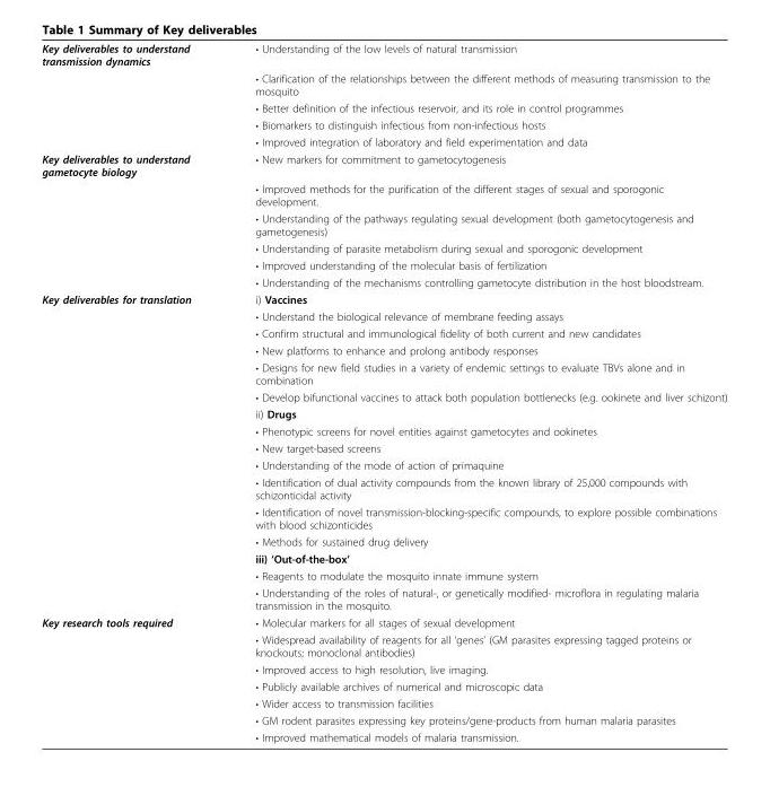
<table><tbody><tr><td rowspan="5">Key deliverables to understand transmission dynamics</td><td>• Understanding of the low levels of natural transmission</td></tr><tr><td>• Clarification of the relationships between the different methods of measuring transmission to the mosquito</td></tr><tr><td>• Better definition of the infectious reservoir, and its role in control programmes</td></tr><tr><td>• Biomarkers to distinguish infectious from non-infectious hosts</td></tr><tr><td>• Improved integration of laboratory and field experimentation and data</td></tr><tr><td rowspan="6">Key deliverables to understand gametocyte biology</td><td>• New markers for commitment to gametocytogenesis</td></tr><tr><td>• Improved methods for the purification of the different stages of sexual and sporogonic development.</td></tr><tr><td>• Understanding of the pathways regulating sexual development (both gametocytogenesis and gametogenesis)</td></tr><tr><td>• Understanding of parasite metabolism during sexual and sporogonic development</td></tr><tr><td>• Improved understanding of the molecular basis of fertilization</td></tr><tr><td>• Understanding of the mechanisms controlling gametocyte distribution in the host bloodstream.</td></tr><tr><td rowspan="16">Key deliverables for translation</td><td>i) Vaccines</td></tr><tr><td>• Understand the biological relevance of membrane feeding assays</td></tr><tr><td>• Confirm structural and immunological fidelity of both current and new candidates</td></tr><tr><td>• New platforms to enhance and prolong antibody responses</td></tr><tr><td>• Designs for new field studies in a variety of endemic settings to evaluate TBVs alone and in combination</td></tr><tr><td>• Develop bifunctional vaccines to attack both population bottlenecks (e.g. ookinete and liver schizont)</td></tr><tr><td>ii) Drugs</td></tr><tr><td>• Phenotypic screens for novel entities against gametocytes and ookinetes</td></tr><tr><td>• New target-based screens</td></tr><tr><td>• Understanding of the mode of action of primaquine</td></tr><tr><td>• Identification of dual activity compounds from the known library of 25,000 compounds with schizonticidal activity</td></tr><tr><td>• Identification of novel transmission-blocking-specific compounds, to explore possible combinations with blood schizonticides</td></tr><tr><td>• Methods for sustained drug delivery</td></tr><tr><td>iii) ‘Out-of-the-box’</td></tr><tr><td>• Reagents to modulate the mosquito innate immune system</td></tr><tr><td>• Understanding of the roles of natural-, or genetically modified- microflora in regulating malaria transmission in the mosquito.</td></tr><tr><td rowspan="7">Key research tools required</td><td>• Molecular markers for all stages of sexual development</td></tr><tr><td>• Widespread availability of reagents for all ‘genes’ (GM parasites expressing tagged proteins or knockouts; monoclonal antibodies)</td></tr><tr><td>• Improved access to high resolution, live imaging.</td></tr><tr><td>• Publicly available archives of numerical and microscopic data</td></tr><tr><td>• Wider access to transmission facilities</td></tr><tr><td>• GM rodent parasites expressing key proteins/gene-products from human malaria parasites</td></tr><tr><td>• Improved mathematical models of malaria transmission.</td></tr></tbody></table>